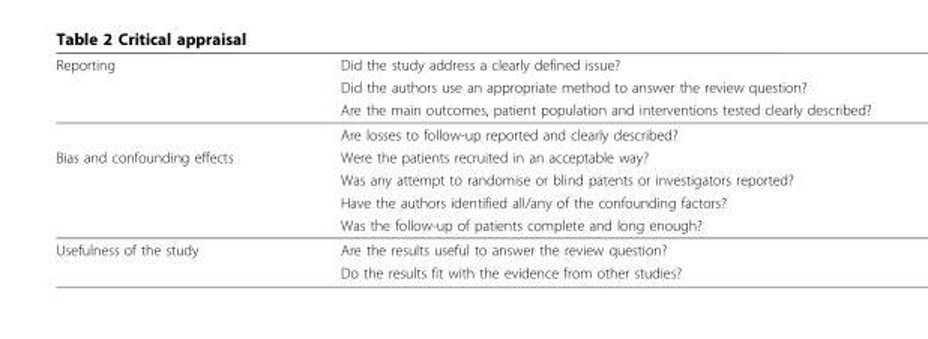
<table><thead><tr><td rowspan="3">Reporting</td><td rowspan="3">Did the study address a clearly defined issue? Did the authors use an appropriate method to answer the review question? Are the main outcomes, patient population and interventions tested clearly described?</td></tr><tr></tr><tr></tr></thead><tbody><tr><td></td><td>Are losses to follow-up reported and clearly described?</td></tr><tr><td rowspan="4">Bias and confounding effects</td><td>Were the patients recruited in an acceptable way?</td></tr><tr><td>Was any attempt to randomise or blind patents or investigators reported?</td></tr><tr><td>Have the authors identified all/any of the confounding factors?</td></tr><tr><td>Was the follow-up of patients complete and long enough?</td></tr><tr><td rowspan="2">Usefulness of the study</td><td>Are the results useful to answer the review question?</td></tr><tr><td>Do the results fit with the evidence from other studies?</td></tr></tbody></table>